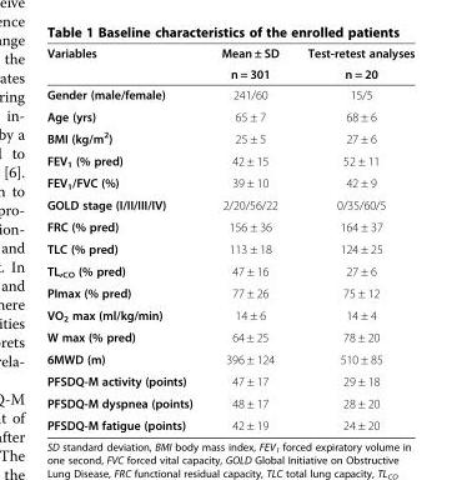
<table><thead><tr><td rowspan="2">Variables</td><td rowspan="2">Mean ± SD n = 301</td><td rowspan="2">Test-retest analyses n = 20</td></tr><tr></tr></thead><tbody><tr><td>Gender (male/female)</td><td>241/60</td><td>15/5</td></tr><tr><td>Age (yrs)</td><td>65 ± 7</td><td>68 ± 6</td></tr><tr><td>BMI (kg/m<sup>2</sup>)</td><td>25 ± 5</td><td>27 ± 6</td></tr><tr><td>FEV<sub>1</sub> (% pred)</td><td>42 ± 15</td><td>52 ± 11</td></tr><tr><td>FEV<sub>1</sub>/FVC (%)</td><td>39 ± 10</td><td>42 ± 9</td></tr><tr><td>GOLD stage (I/II/III/IV)</td><td>2/20/56/22</td><td>0/35/60/5</td></tr><tr><td>FRC (% pred)</td><td>156 ± 36</td><td>164 ± 37</td></tr><tr><td>TLC (% pred)</td><td>113 ± 18</td><td>124 ± 25</td></tr><tr><td>TL,<sub>CO</sub> (% pred)</td><td>47 ± 16</td><td>27 ± 6</td></tr><tr><td>PImax (% pred)</td><td>77 ± 26</td><td>75 ± 12</td></tr><tr><td>VO<sub>2</sub> max (ml/kg/min)</td><td>14 ± 6</td><td>14 ± 4</td></tr><tr><td>W max (% pred)</td><td>64 ± 25</td><td>78 ± 20</td></tr><tr><td>6MWD (m)</td><td>396 ± 124</td><td>510 ± 85</td></tr><tr><td>PFSDQ-M activity (points)</td><td>47 ± 17</td><td>29 ± 18</td></tr><tr><td>PFSDQ-M dyspnea (points)</td><td>48 ± 17</td><td>28 ± 20</td></tr><tr><td>PFSDQ-M fatigue (points)</td><td>42 ± 19</td><td>24 ± 20</td></tr></tbody></table>